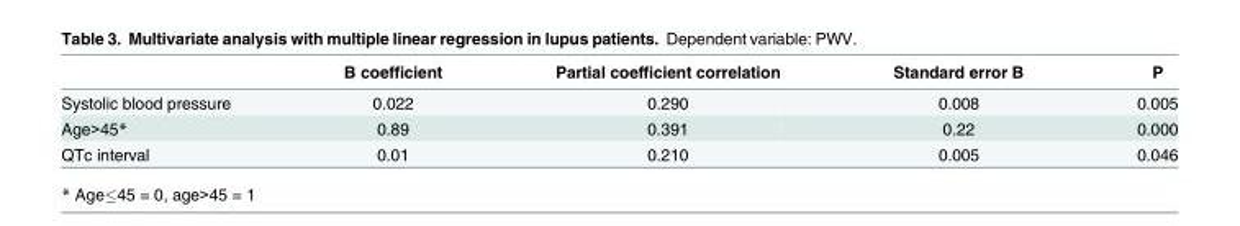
<table><thead><tr><td></td><td>B coefficient</td><td>Partial coefficient correlation</td><td>Standard error B</td><td>P</td></tr></thead><tbody><tr><td>Systolic blood pressure</td><td>0.022</td><td>0.290</td><td>0.008</td><td>0.005</td></tr><tr><td>Age&gt;45*</td><td>0.89</td><td>0.391</td><td>0.22</td><td>0.000</td></tr><tr><td>QTc interval</td><td>0.01</td><td>0.210</td><td>0.005</td><td>0.046</td></tr></tbody></table>